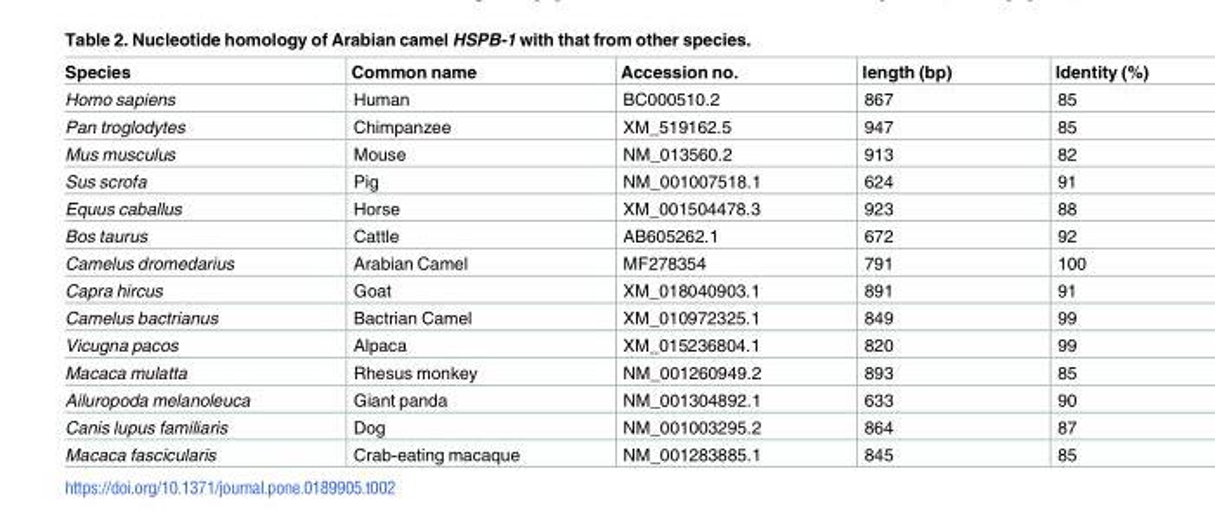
<table><thead><tr><td>Species</td><td>Common name</td><td>Accession no.</td><td>length (bp)</td><td>Identity (%)</td></tr></thead><tbody><tr><td>Homo sapiens</td><td>Human</td><td>BC000510.2</td><td>867</td><td>85</td></tr><tr><td>Pan troglodytes</td><td>Chimpanzee</td><td>XM_519162.5</td><td>947</td><td>85</td></tr><tr><td>Mus musculus</td><td>Mouse</td><td>NM_013560.2</td><td>913</td><td>82</td></tr><tr><td>Sus scrofa</td><td>Pig</td><td>NM_001007518.1</td><td>624</td><td>91</td></tr><tr><td>Equus caballus</td><td>Horse</td><td>XM_001504478.3</td><td>923</td><td>88</td></tr><tr><td>Bos taurus</td><td>Cattle</td><td>AB605262.1</td><td>672</td><td>92</td></tr><tr><td>Camelus dromedarius</td><td>Arabian Camel</td><td>MF278354</td><td>791</td><td>100</td></tr><tr><td>Capra hircus</td><td>Goat</td><td>XM_018040903.1</td><td>891</td><td>91</td></tr><tr><td>Camelus bactrianus</td><td>Bactrian Camel</td><td>XM_010972325.1</td><td>849</td><td>99</td></tr><tr><td>Vicugna pacos</td><td>Alpaca</td><td>XM_015236804.1</td><td>820</td><td>99</td></tr><tr><td>Macaca mulatta</td><td>Rhesus monkey</td><td>NM_001260949.2</td><td>893</td><td>85</td></tr><tr><td>Ailuropoda melanoleuca</td><td>Giant panda</td><td>NM_001304892.1</td><td>633</td><td>90</td></tr><tr><td>Canis lupus familiaris</td><td>Dog</td><td>NM_001003295.2</td><td>864</td><td>87</td></tr><tr><td>Macaca fascicularis</td><td>Crab-eating macaque</td><td>NM_001283885.1</td><td>845</td><td>85</td></tr></tbody></table>